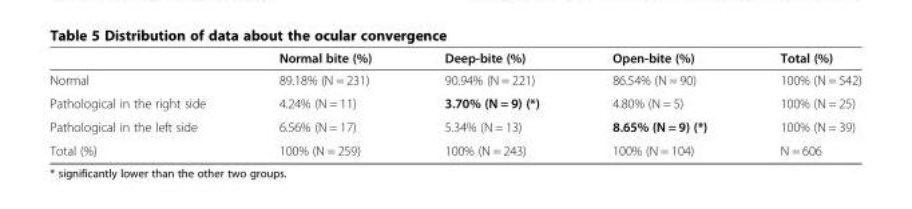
<table><thead><tr><td></td><td>Normal bite (%)</td><td>Deep-bite (%)</td><td>Open-bite (%)</td><td>Total (%)</td></tr></thead><tbody><tr><td>Normal</td><td>89.18% (N = 231)</td><td>90.94% (N = 221)</td><td>86.54% (N = 90)</td><td>100% (N = 542)</td></tr><tr><td>Pathological in the right side</td><td>4.24% (N = 11)</td><td>3.70% (N = 9) (*)</td><td>4.80% (N = 5)</td><td>100% (N = 25)</td></tr><tr><td>Pathological in the left side</td><td>6.56% (N = 17)</td><td>5.34% (N = 13)</td><td>8.65% (N = 9) (*)</td><td>100% (N = 39)</td></tr><tr><td>Total (%)</td><td>100% (N = 259)</td><td>100% (N = 243)</td><td>100% (N = 104)</td><td>N = 606</td></tr></tbody></table>